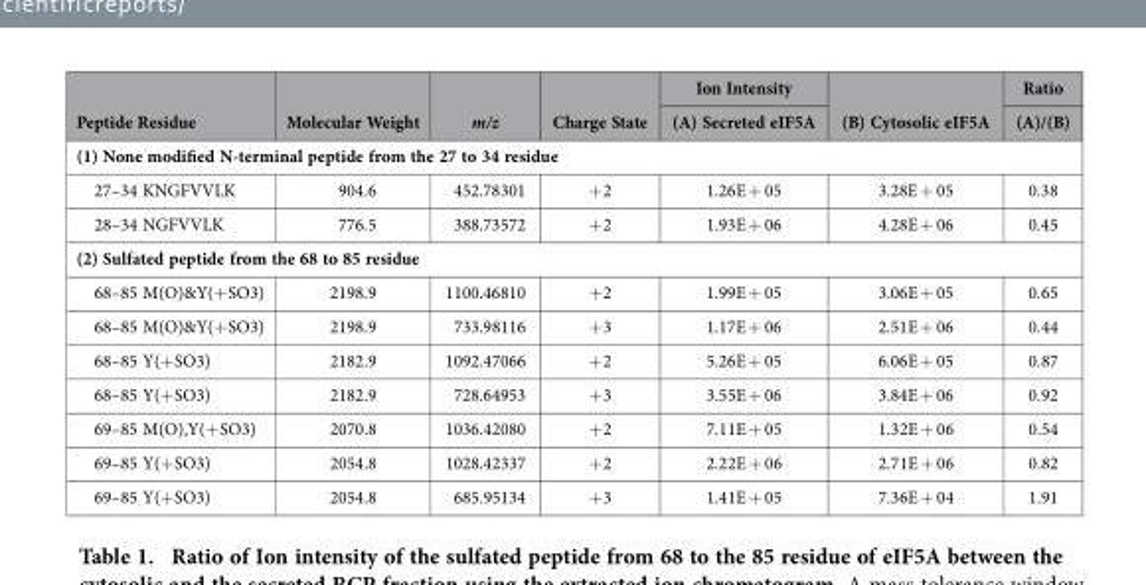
<table><thead><tr><td rowspan="2">Peptide Residue</td><td rowspan="2">Molecular Weight</td><td rowspan="2">m/z</td><td rowspan="2">Charge State</td><td rowspan="2">Ion Intensity (A) Secreted eIF5A</td><td rowspan="2">(B) Cytosolic eIF5A</td><td rowspan="2">Ratio (A)/(B)</td></tr><tr></tr></thead><tbody><tr><td colspan="7">(1) None modified N-terminal peptide from the 27 to 34 residue</td></tr><tr><td>27–34 KNGFVVLK</td><td>904.6</td><td>452.78301</td><td>+ 2</td><td>1.26E + 05</td><td>3.28E + 05</td><td>0.38</td></tr><tr><td>28–34 NGFVVLK</td><td>776.5</td><td>388.73572</td><td>+ 2</td><td>1.93E + 06</td><td>4.28E + 06</td><td>0.45</td></tr><tr><td colspan="7">(2) Sulfated peptide from the 68 to 85 residue</td></tr><tr><td>68–85 M(O)&amp;Y(+ SO3)</td><td>2198.9</td><td>1100.46810</td><td>+ 2</td><td>1.99E + 05</td><td>3.06E + 05</td><td>0.65</td></tr><tr><td>68–85 M(O)&amp;Y(+ SO3)</td><td>2198.9</td><td>733.98116</td><td>+ 3</td><td>1.17E + 06</td><td>2.51E + 06</td><td>0.44</td></tr><tr><td>68–85 Y(+ SO3)</td><td>2182.9</td><td>1092.47066</td><td>+ 2</td><td>5.26E + 05</td><td>6.06E + 05</td><td>0.87</td></tr><tr><td>68–85 Y(+ SO3)</td><td>2182.9</td><td>728.64953</td><td>+ 3</td><td>3.55E + 06</td><td>3.84E + 06</td><td>0.92</td></tr><tr><td>69–85 M(O),Y(+ SO3)</td><td>2070.8</td><td>1036.42080</td><td>+ 2</td><td>7.11E + 05</td><td>1.32E + 06</td><td>0.54</td></tr><tr><td>69–85 Y(+ SO3)</td><td>2054.8</td><td>1028.42337</td><td>+ 2</td><td>2.22E + 06</td><td>2.71E + 06</td><td>0.82</td></tr><tr><td>69–85 Y(+ SO3)</td><td>2054.8</td><td>685.95134</td><td>+ 3</td><td>1.41E + 05</td><td>7.36E + 04</td><td>1.91</td></tr></tbody></table>